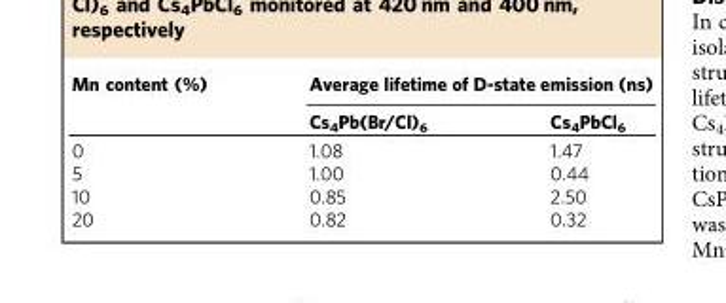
<table><thead><tr><td rowspan="2">Mn content (%)</td><td colspan="2">Average lifetime of D-state emission (ns)</td></tr><tr><td>Cs<sub>4</sub>Pb(Br/Cl)<sub>6</sub></td><td>Cs<sub>4</sub>PbCl<sub>6</sub></td></tr></thead><tbody><tr><td>0</td><td>1.08</td><td>1.47</td></tr><tr><td>5</td><td>1.00</td><td>0.44</td></tr><tr><td>10</td><td>0.85</td><td>2.50</td></tr><tr><td>20</td><td>0.82</td><td>0.32</td></tr></tbody></table>